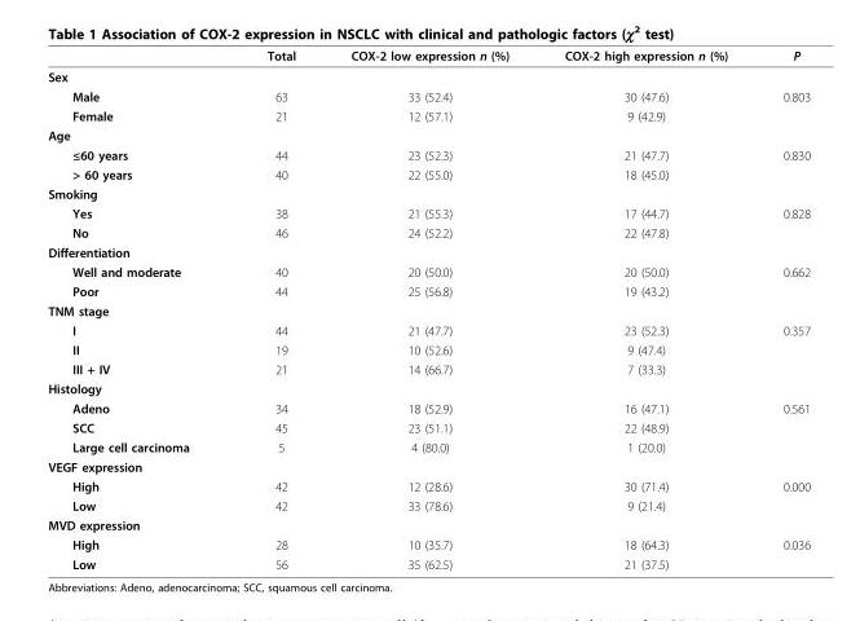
<table><thead><tr><td></td><td>Total</td><td>COX-2 low expression n (%)</td><td>COX-2 high expression n (%)</td><td>P</td></tr></thead><tbody><tr><td colspan="5">Sex</td></tr><tr><td>Male</td><td>63</td><td>33 (52.4)</td><td>30 (47.6)</td><td>0.803</td></tr><tr><td>Female</td><td>21</td><td>12 (57.1)</td><td>9 (42.9)</td><td></td></tr><tr><td colspan="5">Age</td></tr><tr><td>≤60 years</td><td>44</td><td>23 (52.3)</td><td>21 (47.7)</td><td>0.830</td></tr><tr><td>&gt; 60 years</td><td>40</td><td>22 (55.0)</td><td>18 (45.0)</td><td></td></tr><tr><td colspan="5">Smoking</td></tr><tr><td>Yes</td><td>38</td><td>21 (55.3)</td><td>17 (44.7)</td><td>0.828</td></tr><tr><td>No</td><td>46</td><td>24 (52.2)</td><td>22 (47.8)</td><td></td></tr><tr><td colspan="5">Differentiation</td></tr><tr><td>Well and moderate</td><td>40</td><td>20 (50.0)</td><td>20 (50.0)</td><td>0.662</td></tr><tr><td>Poor</td><td>44</td><td>25 (56.8)</td><td>19 (43.2)</td><td></td></tr><tr><td colspan="5">TNM stage</td></tr><tr><td>I</td><td>44</td><td>21 (47.7)</td><td>23 (52.3)</td><td>0.357</td></tr><tr><td>II</td><td>19</td><td>10 (52.6)</td><td>9 (47.4)</td><td></td></tr><tr><td>III + IV</td><td>21</td><td>14 (66.7)</td><td>7 (33.3)</td><td></td></tr><tr><td colspan="5">Histology</td></tr><tr><td>Adeno</td><td>34</td><td>18 (52.9)</td><td>16 (47.1)</td><td>0.561</td></tr><tr><td>SCC</td><td>45</td><td>23 (51.1)</td><td>22 (48.9)</td><td></td></tr><tr><td>Large cell carcinoma</td><td>5</td><td>4 (80.0)</td><td>1 (20.0)</td><td></td></tr><tr><td colspan="5">VEGF expression</td></tr><tr><td>High</td><td>42</td><td>12 (28.6)</td><td>30 (71.4)</td><td>0.000</td></tr><tr><td>Low</td><td>42</td><td>33 (78.6)</td><td>9 (21.4)</td><td></td></tr><tr><td colspan="5">MVD expression</td></tr><tr><td>High</td><td>28</td><td>10 (35.7)</td><td>18 (64.3)</td><td>0.036</td></tr><tr><td>Low</td><td>56</td><td>35 (62.5)</td><td>21 (37.5)</td><td></td></tr></tbody></table>